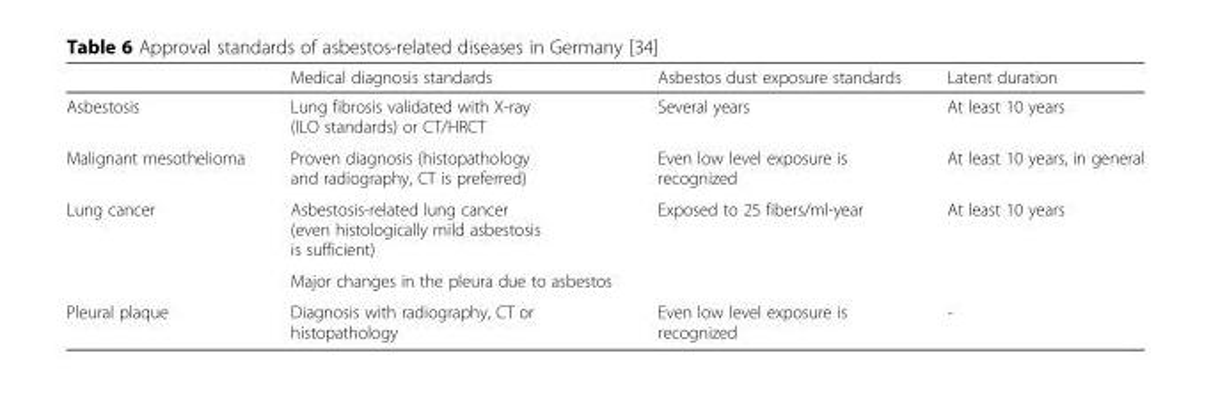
<table><thead><tr><td></td><td>Medical diagnosis standards</td><td>Asbestos dust exposure standards</td><td>Latent duration</td></tr></thead><tbody><tr><td>Asbestosis</td><td>Lung fibrosis validated with X-ray (ILO standards) or CT/HRCT</td><td>Several years</td><td>At least 10 years</td></tr><tr><td>Malignant mesothelioma</td><td>Proven diagnosis (histopathology and radiography, CT is preferred)</td><td>Even low level exposure is recognized</td><td>At least 10 years, in general</td></tr><tr><td rowspan="2">Lung cancer</td><td>Asbestosis-related lung cancer (even histologically mild asbestosis is sufficient)</td><td rowspan="2">Exposed to 25 fibers/ml-year</td><td rowspan="2">At least 10 years</td></tr><tr><td>Major changes in the pleura due to asbestos</td></tr><tr><td>Pleural plaque</td><td>Diagnosis with radiography, CT or histopathology</td><td>Even low level exposure is recognized</td><td>-</td></tr></tbody></table>